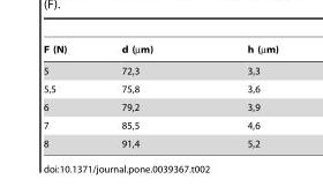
<table><thead><tr><td>F (N)</td><td>d (µm)</td><td>h (µm)</td></tr></thead><tbody><tr><td>5</td><td>72,3</td><td>3,3</td></tr><tr><td>5,5</td><td>75,8</td><td>3,6</td></tr><tr><td>6</td><td>79,2</td><td>3,9</td></tr><tr><td>7</td><td>85,5</td><td>4,6</td></tr><tr><td>8</td><td>91,4</td><td>5,2</td></tr></tbody></table>